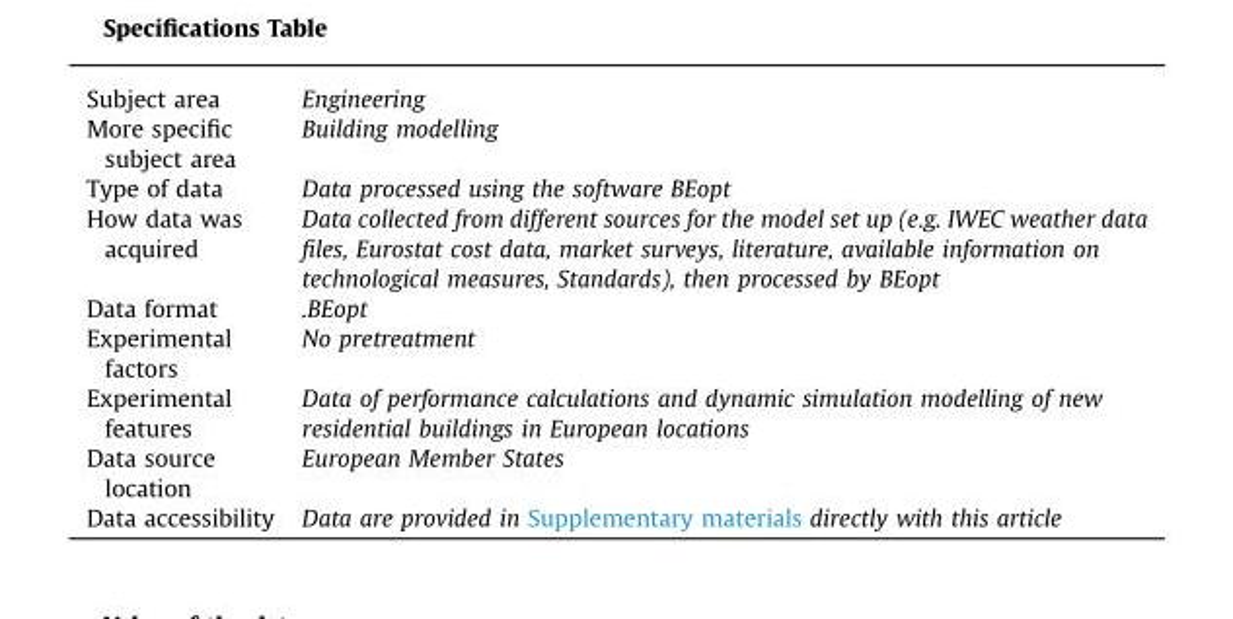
<table><tbody><tr><td>Subject area</td><td>Engineering</td></tr><tr><td>More specific subject area</td><td>Building modelling</td></tr><tr><td>Type of data</td><td>Data processed using the software BEopt</td></tr><tr><td>How data was acquired</td><td>Data collected from different sources for the model set up (e.g. IWEC weather data files, Eurostat cost data, market surveys, literature, available information on technological measures, Standards), then processed by BEopt</td></tr><tr><td>Data format</td><td>.BEopt</td></tr><tr><td>Experimental factors</td><td>No pretreatment</td></tr><tr><td>Experimental features</td><td>Data of performance calculations and dynamic simulation modelling of new residential buildings in European locations</td></tr><tr><td>Data source location</td><td>European Member States</td></tr><tr><td>Data accessibility</td><td>Data are provided in Supplementary materials directly with this article</td></tr></tbody></table>